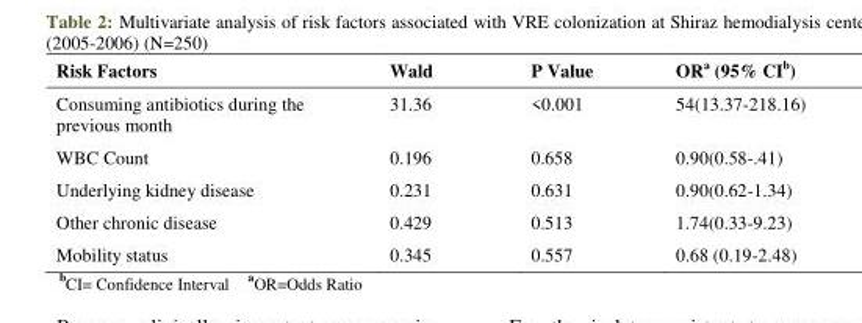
<table><thead><tr><td>Risk Factors</td><td>Wald</td><td>P Value</td><td>ORa (95% CIb)</td></tr></thead><tbody><tr><td>Consuming antibiotics during the previous month</td><td>31.36</td><td>&lt;0.001</td><td>54(13.37-218.16)</td></tr><tr><td>WBC Count</td><td>0.196</td><td>0.658</td><td>0.90(0.58-.41)</td></tr><tr><td>Underlying kidney disease</td><td>0.231</td><td>0.631</td><td>0.90(0.62-1.34)</td></tr><tr><td>Other chronic disease</td><td>0.429</td><td>0.513</td><td>1.74(0.33-9.23)</td></tr><tr><td>Mobility status</td><td>0.345</td><td>0.557</td><td>0.68 (0.19-2.48)</td></tr></tbody></table>